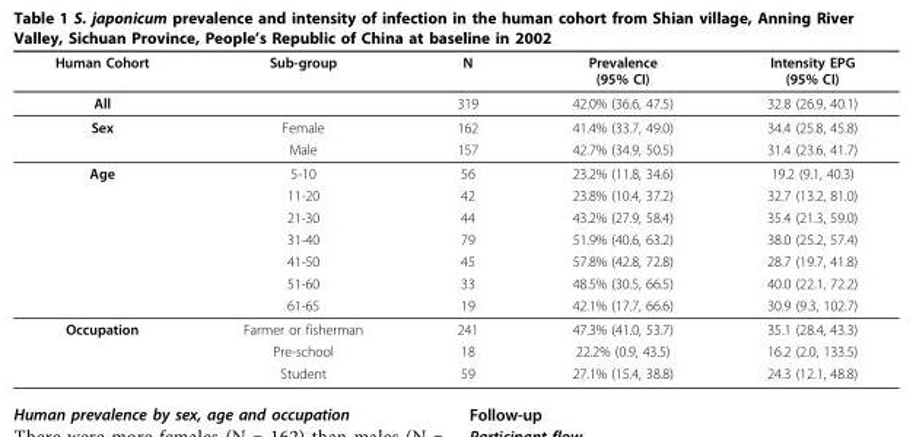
<table><thead><tr><td>Human Cohort</td><td>Sub-group</td><td>N</td><td>Prevalence (95% CI)</td><td>Intensity EPG (95% CI)</td></tr></thead><tbody><tr><td>All</td><td></td><td>319</td><td>42.0% (36.6, 47.5)</td><td>32.8 (26.9, 40.1)</td></tr><tr><td rowspan="2">Sex</td><td>Female</td><td>162</td><td>41.4% (33.7, 49.0)</td><td>34.4 (25.8, 45.8)</td></tr><tr><td>Male</td><td>157</td><td>42.7% (34.9, 50.5)</td><td>31.4 (23.6, 41.7)</td></tr><tr><td rowspan="7">Age</td><td>5-10</td><td>56</td><td>23.2% (11.8, 34.6)</td><td>19.2 (9.1, 40.3)</td></tr><tr><td>11-20</td><td>42</td><td>23.8% (10.4, 37.2)</td><td>32.7 (13.2, 81.0)</td></tr><tr><td>21-30</td><td>44</td><td>43.2% (27.9, 58.4)</td><td>35.4 (21.3, 59.0)</td></tr><tr><td>31-40</td><td>79</td><td>51.9% (40.6, 63.2)</td><td>38.0 (25.2, 57.4)</td></tr><tr><td>41-50</td><td>45</td><td>57.8% (42.8, 72.8)</td><td>28.7 (19.7, 41.8)</td></tr><tr><td>51-60</td><td>33</td><td>48.5% (30.5, 66.5)</td><td>40.0 (22.1, 72.2)</td></tr><tr><td>61-65</td><td>19</td><td>42.1% (17.7, 66.6)</td><td>30.9 (9.3, 102.7)</td></tr><tr><td rowspan="3">Occupation</td><td>Farmer or fisherman</td><td>241</td><td>47.3% (41.0, 53.7)</td><td>35.1 (28.4, 43.3)</td></tr><tr><td>Pre-school</td><td>18</td><td>22.2% (0.9, 43.5)</td><td>16.2 (2.0, 133.5)</td></tr><tr><td>Student</td><td>59</td><td>27.1% (15.4, 38.8)</td><td>24.3 (12.1, 48.8)</td></tr></tbody></table>